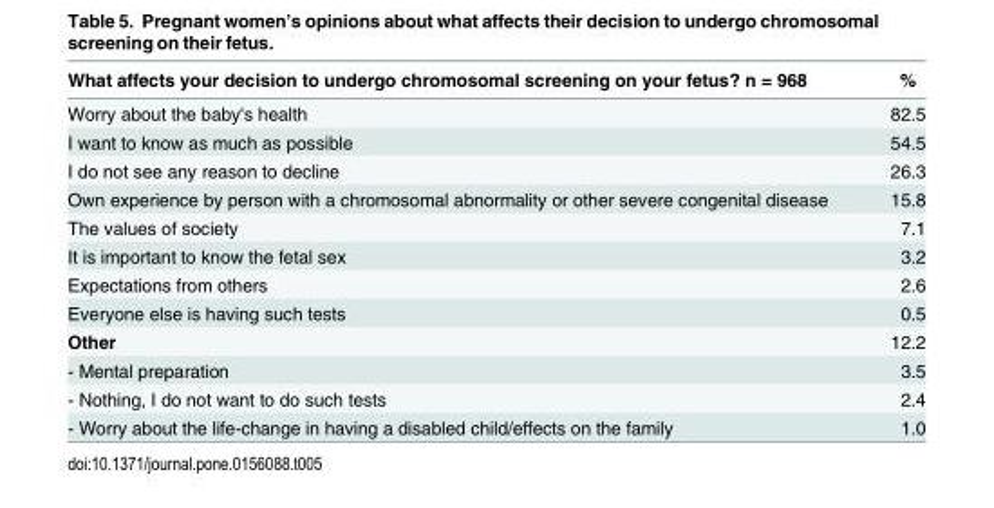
<table><thead><tr><td>What affects your decision to undergo chromosomal screening on your fetus? n = 968</td><td>%</td></tr></thead><tbody><tr><td>Worry about the baby&#x27;s health</td><td>82.5</td></tr><tr><td>I want to know as much as possible</td><td>54.5</td></tr><tr><td>I do not see any reason to decline</td><td>26.3</td></tr><tr><td>Own experience by person with a chromosomal abnormality or other severe congenital disease</td><td>15.8</td></tr><tr><td>The values of society</td><td>7.1</td></tr><tr><td>It is important to know the fetal sex</td><td>3.2</td></tr><tr><td>Expectations from others</td><td>2.6</td></tr><tr><td>Everyone else is having such tests</td><td>0.5</td></tr><tr><td>Other</td><td>12.2</td></tr><tr><td>- Mental preparation</td><td>3.5</td></tr><tr><td>- Nothing, I do not want to do such tests</td><td>2.4</td></tr><tr><td>- Worry about the life-change in having a disabled child/effects on the family</td><td>1.0</td></tr></tbody></table>